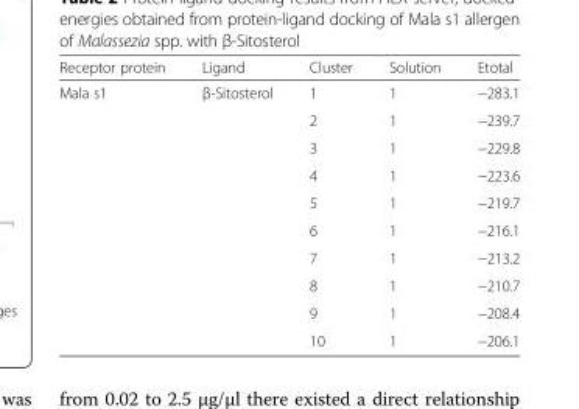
<table><thead><tr><td>Receptor protein</td><td>Ligand</td><td>Cluster</td><td>Solution</td><td>Etotal</td></tr></thead><tbody><tr><td rowspan="10">Mala s1</td><td>β-Sitosterol</td><td>1</td><td>1</td><td>−283.1</td></tr><tr><td></td><td>2</td><td>1</td><td>−239.7</td></tr><tr><td></td><td>3</td><td>1</td><td>−229.8</td></tr><tr><td></td><td>4</td><td>1</td><td>−223.6</td></tr><tr><td></td><td>5</td><td>1</td><td>−219.7</td></tr><tr><td></td><td>6</td><td>1</td><td>−216.1</td></tr><tr><td></td><td>7</td><td>1</td><td>−213.2</td></tr><tr><td></td><td>8</td><td>1</td><td>−210.7</td></tr><tr><td></td><td>9</td><td>1</td><td>−208.4</td></tr><tr><td></td><td>10</td><td>1</td><td>−206.1</td></tr></tbody></table>